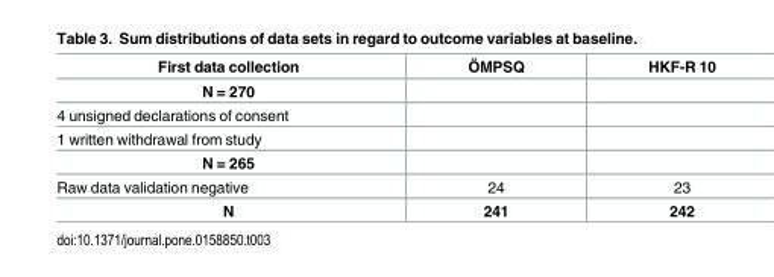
<table><thead><tr><td>First data collection</td><td>ÖMPSQ</td><td>HKF-R 10</td></tr></thead><tbody><tr><td colspan="3">N = 270</td></tr><tr><td colspan="3">4 unsigned declarations of consent</td></tr><tr><td colspan="3">1 written withdrawal from study</td></tr><tr><td colspan="3">N = 265</td></tr><tr><td>Raw data validation negative</td><td>24</td><td>23</td></tr><tr><td>N</td><td>241</td><td>242</td></tr></tbody></table>